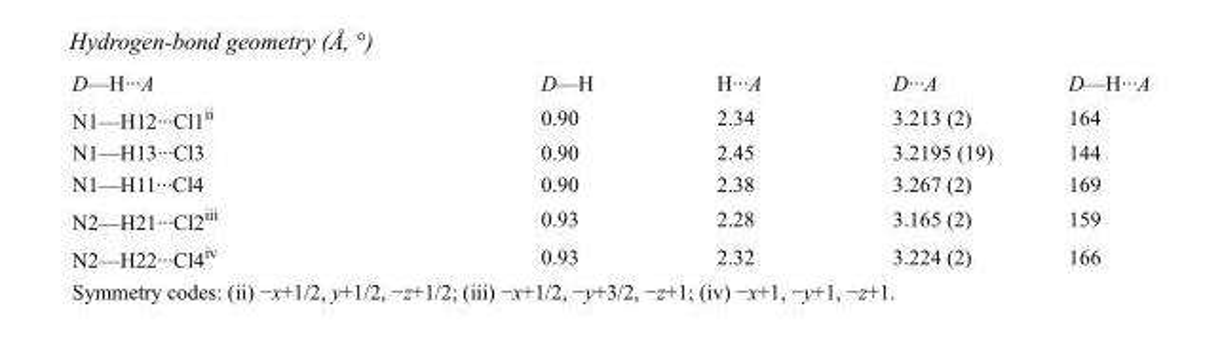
<table><tbody><tr><td>D—H···A</td><td>D—H</td><td>H···A</td><td>D···A</td><td>D—H···A</td></tr><tr><td>N1—H12···Cl1<sup>ii</sup></td><td>0.90</td><td>2.34</td><td>3.213 (2)</td><td>164</td></tr><tr><td>N1—H13···Cl3</td><td>0.90</td><td>2.45</td><td>3.2195 (19)</td><td>144</td></tr><tr><td>N1—H11···Cl4</td><td>0.90</td><td>2.38</td><td>3.267 (2)</td><td>169</td></tr><tr><td>N2—H21···Cl2<sup>iii</sup></td><td>0.93</td><td>2.28</td><td>3.165 (2)</td><td>159</td></tr><tr><td>N2—H22···Cl4<sup>iv</sup></td><td>0.93</td><td>2.32</td><td>3.224 (2)</td><td>166</td></tr></tbody></table>